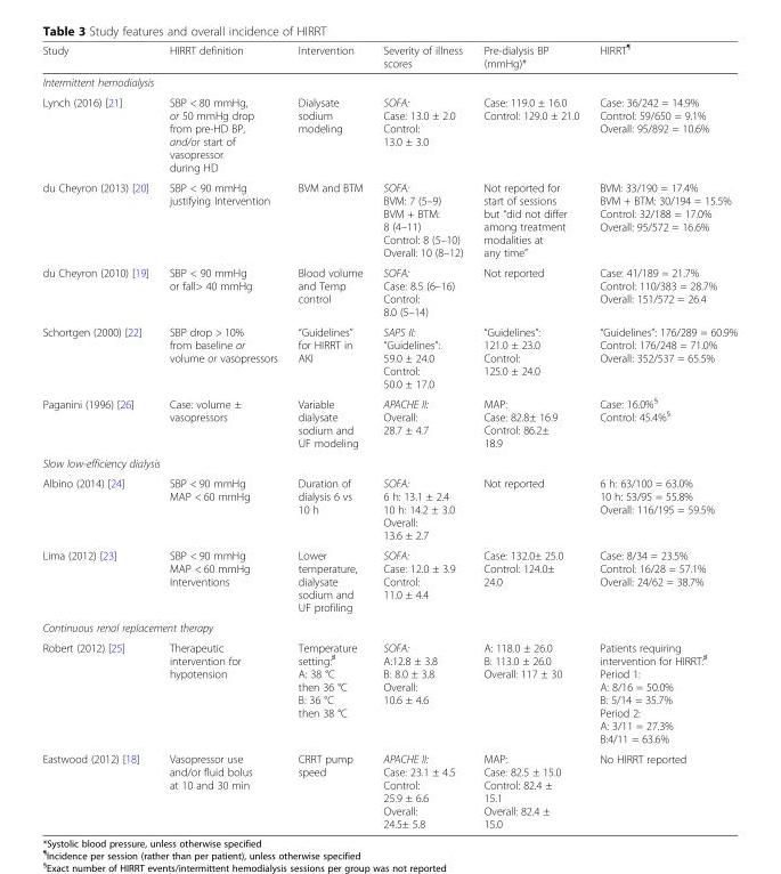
<table><thead><tr><td>Study</td><td>HIRRT definition</td><td>Intervention</td><td>Severity of illness scores</td><td>Pre-dialysis BP (mmHg)*</td><td>HIRRT<sup>¶</sup></td></tr></thead><tbody><tr><td colspan="6">Intermittent hemodialysis</td></tr><tr><td>Lynch (2016) [21]</td><td>SBP &lt; 80 mmHg, or 50 mmHg drop from pre-HD BP, and/or start of vasopressor during HD</td><td>Dialysate sodium modeling</td><td>SOFA: Case: 13.0 ± 2.0 Control: 13.0 ± 3.0</td><td>Case: 119.0 ± 16.0 Control: 129.0 ± 21.0</td><td>Case: 36/242 = 14.9% Control: 59/650 = 9.1% Overall: 95/892 = 10.6%</td></tr><tr><td>du Cheyron (2013) [20]</td><td>SBP &lt; 90 mmHg justifying Intervention</td><td>BVM and BTM</td><td>SOFA: BVM: 7 (5–9) BVM + BTM: 8 (4–11) Control: 8 (5–10) Overall: 10 (8–12)</td><td>Not reported for start of sessions but “did not differ among treatment modalities at any time”</td><td>BVM: 33/190 = 17.4% BVM + BTM: 30/194 = 15.5% Control: 32/188 = 17.0% Overall: 95/572 = 16.6%</td></tr><tr><td>du Cheyron (2010) [19]</td><td>SBP &lt; 90 mmHg or fall&gt; 40 mmHg</td><td>Blood volume and Temp control</td><td>SOFA: Case: 8.5 (6–16) Control: 8.0 (5–14)</td><td>Not reported</td><td>Case: 41/189 = 21.7% Control: 110/383 = 28.7% Overall: 151/572 = 26.4</td></tr><tr><td>Schortgen (2000) [22]</td><td>SBP drop &gt; 10% from baseline or volume or vasopressors</td><td>“Guidelines” for HIRRT in AKI</td><td>SAPS II: “Guidelines”: 59.0 ± 24.0 Control: 50.0 ± 17.0</td><td>“Guidelines”: 121.0 ± 23.0 Control: 125.0 ± 24.0</td><td>“Guidelines”: 176/289 = 60.9% Control: 176/248 = 71.0% Overall: 352/537 = 65.5%</td></tr><tr><td>Paganini (1996) [26]</td><td>Case: volume ± vasopressors</td><td>Variable dialysate sodium and UF modeling</td><td>APACHE II: Overall: 28.7 ± 4.7</td><td>MAP: Case: 82.8± 16.9 Control: 86.2± 18.9</td><td>Case: 16.0%<sup>§</sup> Control: 45.4%<sup>§</sup></td></tr><tr><td colspan="6">Slow low-efficiency dialysis</td></tr><tr><td>Albino (2014) [24]</td><td>SBP &lt; 90 mmHg MAP &lt; 60 mmHg</td><td>Duration of dialysis 6 vs 10 h</td><td>SOFA: 6 h: 13.1 ± 2.4 10 h: 14.2 ± 3.0 Overall: 13.6 ± 2.7</td><td>Not reported</td><td>6 h: 63/100 = 63.0% 10 h: 53/95 = 55.8% Overall: 116/195 = 59.5%</td></tr><tr><td>Lima (2012) [23]</td><td>SBP &lt; 90 mmHg MAP &lt; 60 mmHg Interventions</td><td>Lower temperature, dialysate sodium and UF profiling</td><td>SOFA: Case: 12.0 ± 3.9 Control: 11.0 ± 4.4</td><td>Case: 132.0± 25.0 Control: 124.0± 24.0</td><td>Case: 8/34 = 23.5% Control: 16/28 = 57.1% Overall: 24/62 = 38.7%</td></tr><tr><td colspan="6">Continuous renal replacement therapy</td></tr><tr><td>Robert (2012) [25]</td><td>Therapeutic intervention for hypotension</td><td>Temperature setting:<sup>♯</sup> A: 38 °C then 36 °C B: 36 °C then 38 °C</td><td>SOFA: A:12.8 ± 3.8 B: 8.0 ± 3.8 Overall: 10.6 ± 4.6</td><td>A: 118.0 ± 26.0 B: 113.0 ± 26.0 Overall: 117 ± 30</td><td>Patients requiring intervention for HIRRT:<sup>♯</sup> Period 1: A: 8/16 = 50.0% B: 5/14 = 35.7% Period 2: A: 3/11 = 27.3% B:4/11 = 63.6%</td></tr><tr><td>Eastwood (2012) [18]</td><td>Vasopressor use and/or fluid bolus at 10 and 30 min</td><td>CRRT pump speed</td><td>APACHE II: Case: 23.1 ± 4.5 Control: 25.9 ± 6.6 Overall: 24.5± 5.8</td><td>MAP: Case: 82.5 ± 15.0 Control: 82.4 ± 15.1 Overall: 82.4 ± 15.0</td><td>No HIRRT reported</td></tr></tbody></table>